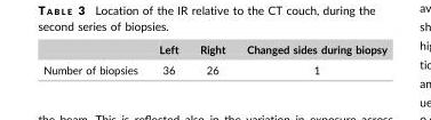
<table><thead><tr><td></td><td>Left</td><td>Right</td><td>Changed sides during biopsy</td></tr></thead><tbody><tr><td>Number of biopsies</td><td>36</td><td>26</td><td>1</td></tr></tbody></table>